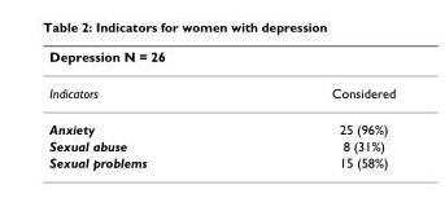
<table><thead><tr><td>Depression N = 26</td><td></td></tr></thead><tbody><tr><td>Indicators</td><td>Considered</td></tr><tr><td>Anxiety</td><td>25 (96%)</td></tr><tr><td>Sexual abuse</td><td>8 (31%)</td></tr><tr><td>Sexual problems</td><td>15 (58%)</td></tr></tbody></table>